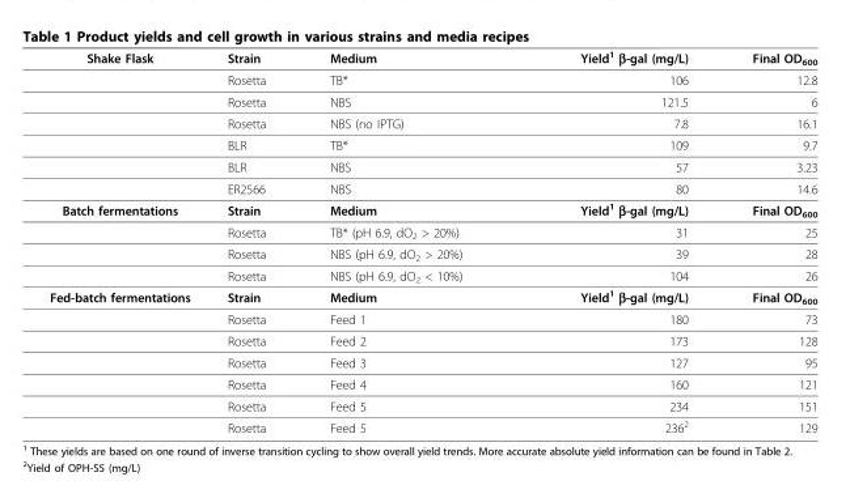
<table><thead><tr><td>Shake Flask</td><td>Strain</td><td>Medium</td><td>Yield<sup>1</sup> β-gal (mg/L)</td><td>Final OD<sub>600</sub></td></tr></thead><tbody><tr><td></td><td>Rosetta</td><td>TB*</td><td>106</td><td>12.8</td></tr><tr><td></td><td>Rosetta</td><td>NBS</td><td>121.5</td><td>6</td></tr><tr><td></td><td>Rosetta</td><td>NBS (no IPTG)</td><td>7.8</td><td>16.1</td></tr><tr><td></td><td>BLR</td><td>TB*</td><td>109</td><td>9.7</td></tr><tr><td></td><td>BLR</td><td>NBS</td><td>57</td><td>3.23</td></tr><tr><td></td><td>ER2566</td><td>NBS</td><td>80</td><td>14.6</td></tr><tr><td rowspan="4">Batch fermentations</td><td>Strain</td><td>Medium</td><td>Yield<sup>1</sup> β-gal (mg/L)</td><td>Final OD<sub>600</sub></td></tr><tr><td>Rosetta</td><td>TB* (pH 6.9, dO<sub>2</sub> &gt; 20%)</td><td>31</td><td>25</td></tr><tr><td>Rosetta</td><td>NBS (pH 6.9, dO<sub>2</sub> &gt; 20%)</td><td>39</td><td>28</td></tr><tr><td>Rosetta</td><td>NBS (pH 6.9, dO<sub>2</sub> &lt; 10%)</td><td>104</td><td>26</td></tr><tr><td rowspan="7">Fed-batch fermentations</td><td>Strain</td><td>Medium</td><td>Yield<sup>1</sup> β-gal (mg/L)</td><td>Final OD<sub>600</sub></td></tr><tr><td>Rosetta</td><td>Feed 1</td><td>180</td><td>73</td></tr><tr><td>Rosetta</td><td>Feed 2</td><td>173</td><td>128</td></tr><tr><td>Rosetta</td><td>Feed 3</td><td>127</td><td>95</td></tr><tr><td>Rosetta</td><td>Feed 4</td><td>160</td><td>121</td></tr><tr><td>Rosetta</td><td>Feed 5</td><td>234</td><td>151</td></tr><tr><td>Rosetta</td><td>Feed 5</td><td>236<sup>2</sup></td><td>129</td></tr></tbody></table>